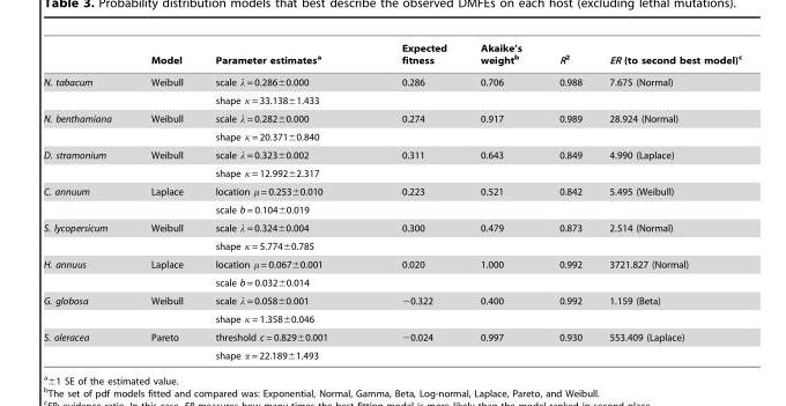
<table><thead><tr><td></td><td>Model</td><td>Parameter estimates<sup>a</sup></td><td>Expected fitness</td><td>Akaike’s weight<sup>b</sup></td><td>R<sup>2</sup></td><td>ER (to second best model)<sup>c</sup></td></tr></thead><tbody><tr><td rowspan="2">N. tabacum</td><td>Weibull</td><td>scale λ = 0.286±0.000</td><td>0.286</td><td>0.706</td><td>0.988</td><td>7.675 (Normal)</td></tr><tr><td></td><td>shape κ = 33.138±1.433</td><td></td><td></td><td></td><td></td></tr><tr><td rowspan="2">N. benthamiana</td><td>Weibull</td><td>scale λ = 0.282±0.000</td><td>0.274</td><td>0.917</td><td>0.989</td><td>28.924 (Normal)</td></tr><tr><td></td><td>shape κ = 20.371±0.840</td><td></td><td></td><td></td><td></td></tr><tr><td rowspan="2">D. stramonium</td><td>Weibull</td><td>scale λ = 0.323±0.002</td><td>0.311</td><td>0.643</td><td>0.849</td><td>4.990 (Laplace)</td></tr><tr><td></td><td>shape κ = 12.992±2.317</td><td></td><td></td><td></td><td></td></tr><tr><td rowspan="2">C. annuum</td><td>Laplace</td><td>location μ = 0.253±0.010</td><td>0.223</td><td>0.521</td><td>0.842</td><td>5.495 (Weibull)</td></tr><tr><td></td><td>scale b = 0.104±0.019</td><td></td><td></td><td></td><td></td></tr><tr><td rowspan="2">S. lycopersicum</td><td>Weibull</td><td>scale λ = 0.324±0.004</td><td>0.300</td><td>0.479</td><td>0.873</td><td>2.514 (Normal)</td></tr><tr><td></td><td>shape κ = 5.774±0.785</td><td></td><td></td><td></td><td></td></tr><tr><td rowspan="2">H. annuus</td><td>Laplace</td><td>location μ = 0.067±0.001</td><td>0.020</td><td>1.000</td><td>0.992</td><td>3721.827 (Normal)</td></tr><tr><td></td><td>scale b = 0.032±0.014</td><td></td><td></td><td></td><td></td></tr><tr><td rowspan="2">G. globosa</td><td>Weibull</td><td>scale λ = 0.058±0.001</td><td>−0.322</td><td>0.400</td><td>0.992</td><td>1.159 (Beta)</td></tr><tr><td></td><td>shape κ = 1.358±0.046</td><td></td><td></td><td></td><td></td></tr><tr><td rowspan="2">S. oleracea</td><td>Pareto</td><td>threshold c = 0.829±0.001</td><td>−0.024</td><td>0.997</td><td>0.930</td><td>553.409 (Laplace)</td></tr><tr><td></td><td>shape α = 22.189±1.493</td><td></td><td></td><td></td><td></td></tr></tbody></table>